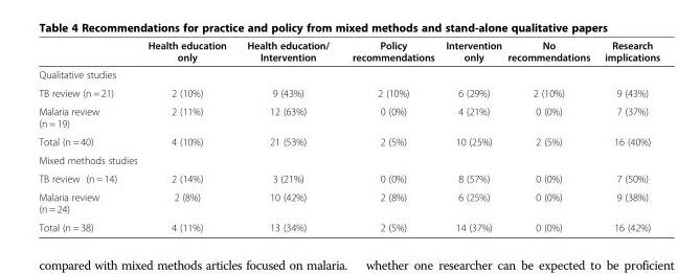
<table><thead><tr><td></td><td>Health education only</td><td>Health education/ Intervention</td><td>Policy recommendations</td><td>Intervention only</td><td>No recommendations</td><td>Research implications</td></tr></thead><tbody><tr><td colspan="7">Qualitative studies</td></tr><tr><td>TB review (n = 21)</td><td>2 (10%)</td><td>9 (43%)</td><td>2 (10%)</td><td>6 (29%)</td><td>2 (10%)</td><td>9 (43%)</td></tr><tr><td>Malaria review (n = 19)</td><td>2 (11%)</td><td>12 (63%)</td><td>0 (0%)</td><td>4 (21%)</td><td>0 (0%)</td><td>7 (37%)</td></tr><tr><td>Total (n = 40)</td><td>4 (10%)</td><td>21 (53%)</td><td>2 (5%)</td><td>10 (25%)</td><td>2 (5%)</td><td>16 (40%)</td></tr><tr><td colspan="7">Mixed methods studies</td></tr><tr><td>TB review (n = 14)</td><td>2 (14%)</td><td>3 (21%)</td><td>0 (0%)</td><td>8 (57%)</td><td>0 (0%)</td><td>7 (50%)</td></tr><tr><td>Malaria review (n = 24)</td><td>2 (8%)</td><td>10 (42%)</td><td>2 (8%)</td><td>6 (25%)</td><td>0 (0%)</td><td>9 (38%)</td></tr><tr><td>Total (n = 38)</td><td>4 (11%)</td><td>13 (34%)</td><td>2 (5%)</td><td>14 (37%)</td><td>0 (0%)</td><td>16 (42%)</td></tr></tbody></table>